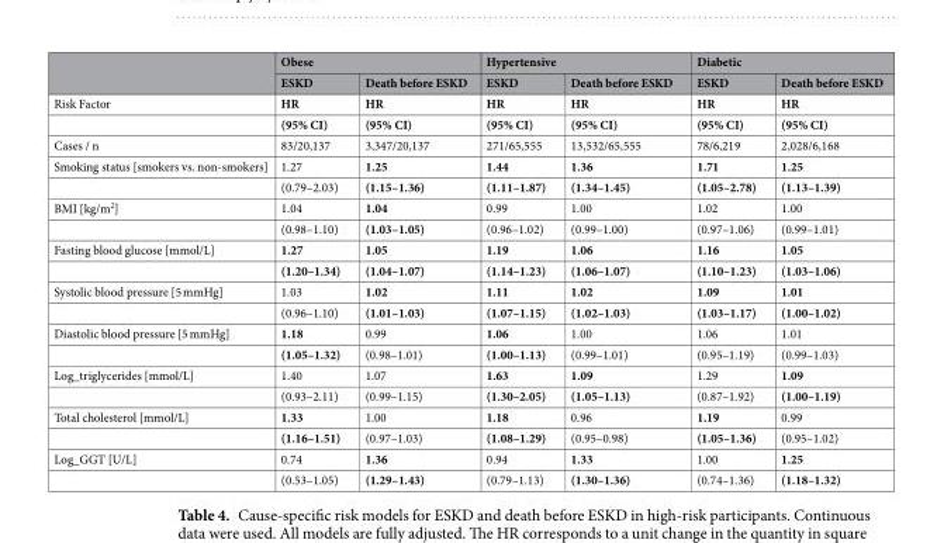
<table><thead><tr><td rowspan="2"></td><td colspan="2">Obese</td><td colspan="2">Hypertensive</td><td colspan="2">Diabetic</td></tr><tr><td>ESKD</td><td>Death before ESKD</td><td>ESKD</td><td>Death before ESKD</td><td>ESKD</td><td>Death before ESKD</td></tr></thead><tbody><tr><td rowspan="2">Risk Factor</td><td>HR</td><td>HR</td><td>HR</td><td>HR</td><td>HR</td><td>HR</td></tr><tr><td>(95% CI)</td><td>(95% CI)</td><td>(95% CI)</td><td>(95% CI)</td><td>(95% CI)</td><td>(95% CI)</td></tr><tr><td>Cases / n</td><td>83/20,137</td><td>3,347/20,137</td><td>271/65,555</td><td>13,532/65,555</td><td>78/6,219</td><td>2,028/6,168</td></tr><tr><td rowspan="2">Smoking status [smokers vs. non-smokers]</td><td>1.27</td><td>1.25</td><td>1.44</td><td>1.36</td><td>1.71</td><td>1.25</td></tr><tr><td>(0.79–2.03)</td><td>(1.15–1.36)</td><td>(1.11–1.87)</td><td>(1.34–1.45)</td><td>(1.05–2.78)</td><td>(1.13–1.39)</td></tr><tr><td rowspan="2">BMI [kg/m<sup>2</sup>]</td><td>1.04</td><td>1.04</td><td>0.99</td><td>1.00</td><td>1.02</td><td>1.00</td></tr><tr><td>(0.98–1.10)</td><td>(1.03–1.05)</td><td>(0.96–1.02)</td><td>(0.99–1.00)</td><td>(0.97–1.06)</td><td>(0.99–1.01)</td></tr><tr><td rowspan="2">Fasting blood glucose [mmol/L]</td><td>1.27</td><td>1.05</td><td>1.19</td><td>1.06</td><td>1.16</td><td>1.05</td></tr><tr><td>(1.20–1.34)</td><td>(1.04–1.07)</td><td>(1.14–1.23)</td><td>(1.06–1.07)</td><td>(1.10–1.23)</td><td>(1.03–1.06)</td></tr><tr><td rowspan="2">Systolic blood pressure [5 mmHg]</td><td>1.03</td><td>1.02</td><td>1.11</td><td>1.02</td><td>1.09</td><td>1.01</td></tr><tr><td>(0.96–1.10)</td><td>(1.01–1.03)</td><td>(1.07–1.15)</td><td>(1.02–1.03)</td><td>(1.03–1.17)</td><td>(1.00–1.02)</td></tr><tr><td rowspan="2">Diastolic blood pressure [5 mmHg]</td><td>1.18</td><td>0.99</td><td>1.06</td><td>1.00</td><td>1.06</td><td>1.01</td></tr><tr><td>(1.05–1.32)</td><td>(0.98–1.01)</td><td>(1.00–1.13)</td><td>(0.99–1.01)</td><td>(0.95–1.19)</td><td>(0.99–1.03)</td></tr><tr><td rowspan="2">Log_triglycerides [mmol/L]</td><td>1.40</td><td>1.07</td><td>1.63</td><td>1.09</td><td>1.29</td><td>1.09</td></tr><tr><td>(0.93–2.11)</td><td>(0.99–1.15)</td><td>(1.30–2.05)</td><td>(1.05–1.13)</td><td>(0.87–1.92)</td><td>(1.00–1.19)</td></tr><tr><td rowspan="2">Total cholesterol [mmol/L]</td><td>1.33</td><td>1.00</td><td>1.18</td><td>0.96</td><td>1.19</td><td>0.99</td></tr><tr><td>(1.16–1.51)</td><td>(0.97–1.03)</td><td>(1.08–1.29)</td><td>(0.95–0.98)</td><td>(1.05–1.36)</td><td>(0.95–1.02)</td></tr><tr><td rowspan="2">Log_GGT [U/L]</td><td>0.74</td><td>1.36</td><td>0.94</td><td>1.33</td><td>1.00</td><td>1.25</td></tr><tr><td>(0.53–1.05)</td><td>(1.29–1.43)</td><td>(0.79–1.13)</td><td>(1.30–1.36)</td><td>(0.74–1.36)</td><td>(1.18–1.32)</td></tr></tbody></table>